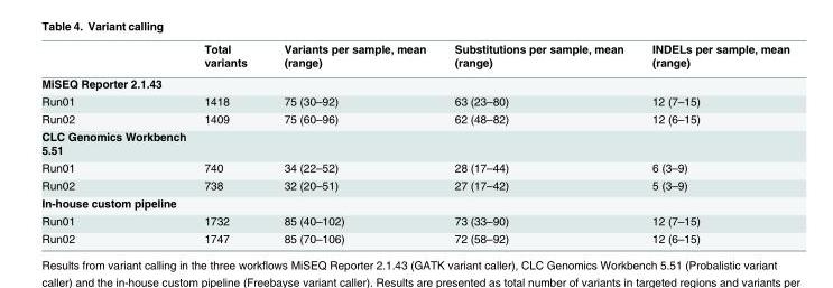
<table><thead><tr><td></td><td>Total variants</td><td>Variants per sample, mean (range)</td><td>Substitutions per sample, mean (range)</td><td>INDELs per sample, mean (range)</td></tr></thead><tbody><tr><td colspan="5">MiSEQ Reporter 2.1.43</td></tr><tr><td>Run01</td><td>1418</td><td>75 (30–92)</td><td>63 (23–80)</td><td>12 (7–15)</td></tr><tr><td>Run02</td><td>1409</td><td>75 (60–96)</td><td>62 (48–82)</td><td>12 (6–15)</td></tr><tr><td colspan="5">CLC Genomics Workbench 5.51</td></tr><tr><td>Run01</td><td>740</td><td>34 (22–52)</td><td>28 (17–44)</td><td>6 (3–9)</td></tr><tr><td>Run02</td><td>738</td><td>32 (20–51)</td><td>27 (17–42)</td><td>5 (3–9)</td></tr><tr><td colspan="5">In-house custom pipeline</td></tr><tr><td>Run01</td><td>1732</td><td>85 (40–102)</td><td>73 (33–90)</td><td>12 (7–15)</td></tr><tr><td>Run02</td><td>1747</td><td>85 (70–106)</td><td>72 (58–92)</td><td>12 (6–15)</td></tr></tbody></table>